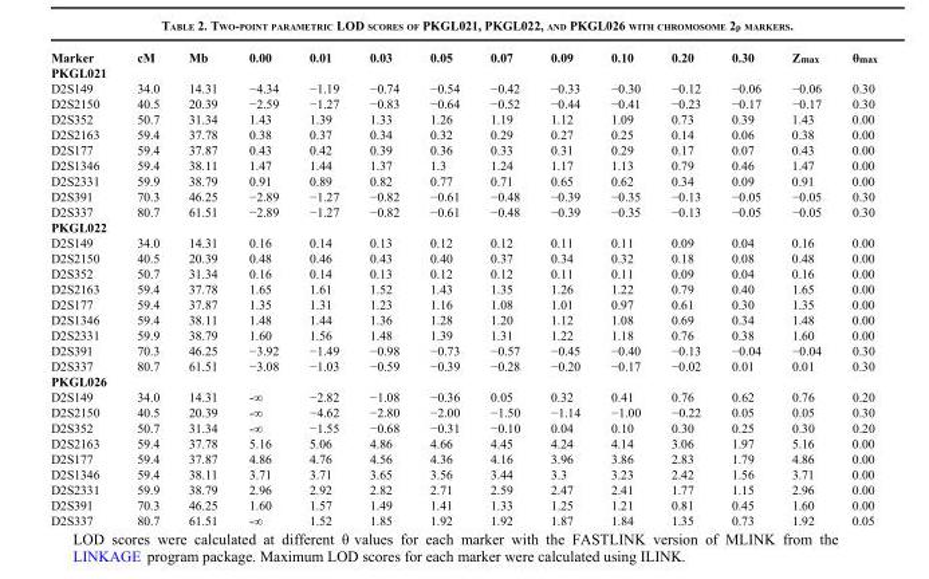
<table><thead><tr><td>Marker</td><td>cM</td><td>Mb</td><td>0.00</td><td>0.01</td><td>0.03</td><td>0.05</td><td>0.07</td><td>0.09</td><td>0.10</td><td>0.20</td><td>0.30</td><td>Z<sub>max</sub></td><td>θ<sub>max</sub></td></tr></thead><tbody><tr><td colspan="14">PKGL021</td></tr><tr><td>D2S149</td><td>34.0</td><td>14.31</td><td>−4.34</td><td>−1.19</td><td>−0.74</td><td>−0.54</td><td>−0.42</td><td>−0.33</td><td>−0.30</td><td>−0.12</td><td>−0.06</td><td>−0.06</td><td>0.30</td></tr><tr><td>D2S2150</td><td>40.5</td><td>20.39</td><td>−2.59</td><td>−1.27</td><td>−0.83</td><td>−0.64</td><td>−0.52</td><td>−0.44</td><td>−0.41</td><td>−0.23</td><td>−0.17</td><td>−0.17</td><td>0.30</td></tr><tr><td>D2S352</td><td>50.7</td><td>31.34</td><td>1.43</td><td>1.39</td><td>1.33</td><td>1.26</td><td>1.19</td><td>1.12</td><td>1.09</td><td>0.73</td><td>0.39</td><td>1.43</td><td>0.00</td></tr><tr><td>D2S2163</td><td>59.4</td><td>37.78</td><td>0.38</td><td>0.37</td><td>0.34</td><td>0.32</td><td>0.29</td><td>0.27</td><td>0.25</td><td>0.14</td><td>0.06</td><td>0.38</td><td>0.00</td></tr><tr><td>D2S177</td><td>59.4</td><td>37.87</td><td>0.43</td><td>0.42</td><td>0.39</td><td>0.36</td><td>0.33</td><td>0.31</td><td>0.29</td><td>0.17</td><td>0.07</td><td>0.43</td><td>0.00</td></tr><tr><td>D2S1346</td><td>59.4</td><td>38.11</td><td>1.47</td><td>1.44</td><td>1.37</td><td>1.3</td><td>1.24</td><td>1.17</td><td>1.13</td><td>0.79</td><td>0.46</td><td>1.47</td><td>0.00</td></tr><tr><td>D2S2331</td><td>59.9</td><td>38.79</td><td>0.91</td><td>0.89</td><td>0.82</td><td>0.77</td><td>0.71</td><td>0.65</td><td>0.62</td><td>0.34</td><td>0.09</td><td>0.91</td><td>0.00</td></tr><tr><td>D2S391</td><td>70.3</td><td>46.25</td><td>−2.89</td><td>−1.27</td><td>−0.82</td><td>−0.61</td><td>−0.48</td><td>−0.39</td><td>−0.35</td><td>−0.13</td><td>−0.05</td><td>−0.05</td><td>0.30</td></tr><tr><td>D2S337</td><td>80.7</td><td>61.51</td><td>−2.89</td><td>−1.27</td><td>−0.82</td><td>−0.61</td><td>−0.48</td><td>−0.39</td><td>−0.35</td><td>−0.13</td><td>−0.05</td><td>−0.05</td><td>0.30</td></tr><tr><td colspan="14">PKGL022</td></tr><tr><td>D2S149</td><td>34.0</td><td>14.31</td><td>0.16</td><td>0.14</td><td>0.13</td><td>0.12</td><td>0.12</td><td>0.11</td><td>0.11</td><td>0.09</td><td>0.04</td><td>0.16</td><td>0.00</td></tr><tr><td>D2S2150</td><td>40.5</td><td>20.39</td><td>0.48</td><td>0.46</td><td>0.43</td><td>0.40</td><td>0.37</td><td>0.34</td><td>0.32</td><td>0.18</td><td>0.08</td><td>0.48</td><td>0.00</td></tr><tr><td>D2S352</td><td>50.7</td><td>31.34</td><td>0.16</td><td>0.14</td><td>0.13</td><td>0.12</td><td>0.12</td><td>0.11</td><td>0.11</td><td>0.09</td><td>0.04</td><td>0.16</td><td>0.00</td></tr><tr><td>D2S2163</td><td>59.4</td><td>37.78</td><td>1.65</td><td>1.61</td><td>1.52</td><td>1.43</td><td>1.35</td><td>1.26</td><td>1.22</td><td>0.79</td><td>0.40</td><td>1.65</td><td>0.00</td></tr><tr><td>D2S177</td><td>59.4</td><td>37.87</td><td>1.35</td><td>1.31</td><td>1.23</td><td>1.16</td><td>1.08</td><td>1.01</td><td>0.97</td><td>0.61</td><td>0.30</td><td>1.35</td><td>0.00</td></tr><tr><td>D2S1346</td><td>59.4</td><td>38.11</td><td>1.48</td><td>1.44</td><td>1.36</td><td>1.28</td><td>1.20</td><td>1.12</td><td>1.08</td><td>0.69</td><td>0.34</td><td>1.48</td><td>0.00</td></tr><tr><td>D2S2331</td><td>59.9</td><td>38.79</td><td>1.60</td><td>1.56</td><td>1.48</td><td>1.39</td><td>1.31</td><td>1.22</td><td>1.18</td><td>0.76</td><td>0.38</td><td>1.60</td><td>0.00</td></tr><tr><td>D2S391</td><td>70.3</td><td>46.25</td><td>−3.92</td><td>−1.49</td><td>−0.98</td><td>−0.73</td><td>−0.57</td><td>−0.45</td><td>−0.40</td><td>−0.13</td><td>−0.04</td><td>−0.04</td><td>0.30</td></tr><tr><td>D2S337</td><td>80.7</td><td>61.51</td><td>−3.08</td><td>−1.03</td><td>−0.59</td><td>−0.39</td><td>−0.28</td><td>−0.20</td><td>−0.17</td><td>−0.02</td><td>0.01</td><td>0.01</td><td>0.30</td></tr><tr><td colspan="14">PKGL026</td></tr><tr><td>D2S149</td><td>34.0</td><td>14.31</td><td>-∞</td><td>−2.82</td><td>−1.08</td><td>−0.36</td><td>0.05</td><td>0.32</td><td>0.41</td><td>0.76</td><td>0.62</td><td>0.76</td><td>0.20</td></tr><tr><td>D2S2150</td><td>40.5</td><td>20.39</td><td>-∞</td><td>−4.62</td><td>−2.80</td><td>−2.00</td><td>−1.50</td><td>−1.14</td><td>−1.00</td><td>−0.22</td><td>0.05</td><td>0.05</td><td>0.30</td></tr><tr><td>D2S352</td><td>50.7</td><td>31.34</td><td>-∞</td><td>−1.55</td><td>−0.68</td><td>−0.31</td><td>−0.10</td><td>0.04</td><td>0.10</td><td>0.30</td><td>0.25</td><td>0.30</td><td>0.20</td></tr><tr><td>D2S2163</td><td>59.4</td><td>37.78</td><td>5.16</td><td>5.06</td><td>4.86</td><td>4.66</td><td>4.45</td><td>4.24</td><td>4.14</td><td>3.06</td><td>1.97</td><td>5.16</td><td>0.00</td></tr><tr><td>D2S177</td><td>59.4</td><td>37.87</td><td>4.86</td><td>4.76</td><td>4.56</td><td>4.36</td><td>4.16</td><td>3.96</td><td>3.86</td><td>2.83</td><td>1.79</td><td>4.86</td><td>0.00</td></tr><tr><td>D2S1346</td><td>59.4</td><td>38.11</td><td>3.71</td><td>3.71</td><td>3.65</td><td>3.56</td><td>3.44</td><td>3.3</td><td>3.23</td><td>2.42</td><td>1.56</td><td>3.71</td><td>0.00</td></tr><tr><td>D2S2331</td><td>59.9</td><td>38.79</td><td>2.96</td><td>2.92</td><td>2.82</td><td>2.71</td><td>2.59</td><td>2.47</td><td>2.41</td><td>1.77</td><td>1.15</td><td>2.96</td><td>0.00</td></tr><tr><td>D2S391</td><td>70.3</td><td>46.25</td><td>1.60</td><td>1.57</td><td>1.49</td><td>1.41</td><td>1.33</td><td>1.25</td><td>1.21</td><td>0.81</td><td>0.45</td><td>1.60</td><td>0.00</td></tr><tr><td>D2S337</td><td>80.7</td><td>61.51</td><td>-∞</td><td>1.52</td><td>1.85</td><td>1.92</td><td>1.92</td><td>1.87</td><td>1.84</td><td>1.35</td><td>0.73</td><td>1.92</td><td>0.05</td></tr></tbody></table>